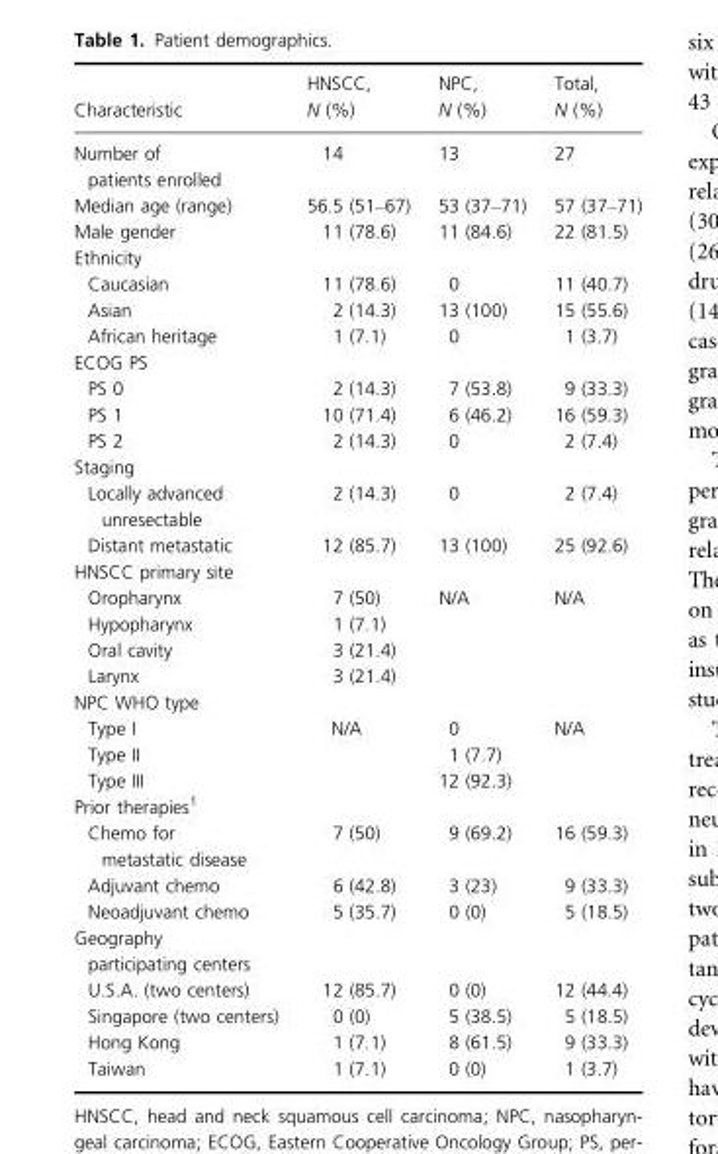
<table><thead><tr><td>Characteristic</td><td>HNSCC, N (%)</td><td>NPC, N (%)</td><td>Total, N (%)</td></tr></thead><tbody><tr><td>Number of patients enrolled</td><td>14</td><td>13</td><td>27</td></tr><tr><td>Median age (range)</td><td>56.5 (51–67)</td><td>53 (37–71)</td><td>57 (37–71)</td></tr><tr><td>Male gender</td><td>11 (78.6)</td><td>11 (84.6)</td><td>22 (81.5)</td></tr><tr><td colspan="4">Ethnicity</td></tr><tr><td>Caucasian</td><td>11 (78.6)</td><td>0</td><td>11 (40.7)</td></tr><tr><td>Asian</td><td>2 (14.3)</td><td>13 (100)</td><td>15 (55.6)</td></tr><tr><td>African heritage</td><td>1 (7.1)</td><td>0</td><td>1 (3.7)</td></tr><tr><td colspan="4">ECOG PS</td></tr><tr><td>PS 0</td><td>2 (14.3)</td><td>7 (53.8)</td><td>9 (33.3)</td></tr><tr><td>PS 1</td><td>10 (71.4)</td><td>6 (46.2)</td><td>16 (59.3)</td></tr><tr><td>PS 2</td><td>2 (14.3)</td><td>0</td><td>2 (7.4)</td></tr><tr><td colspan="4">Staging</td></tr><tr><td>Locally advanced unresectable</td><td>2 (14.3)</td><td>0</td><td>2 (7.4)</td></tr><tr><td>Distant metastatic</td><td>12 (85.7)</td><td>13 (100)</td><td>25 (92.6)</td></tr><tr><td colspan="4">HNSCC primary site</td></tr><tr><td>Oropharynx</td><td>7 (50)</td><td>N/A</td><td>N/A</td></tr><tr><td>Hypopharynx</td><td>1 (7.1)</td><td></td><td></td></tr><tr><td>Oral cavity</td><td>3 (21.4)</td><td></td><td></td></tr><tr><td>Larynx</td><td>3 (21.4)</td><td></td><td></td></tr><tr><td colspan="4">NPC WHO type</td></tr><tr><td>Type I</td><td>N/A</td><td>0</td><td>N/A</td></tr><tr><td>Type II</td><td></td><td>1 (7.7)</td><td></td></tr><tr><td>Type III</td><td></td><td>12 (92.3)</td><td></td></tr><tr><td colspan="4">Prior therapies<sup>1</sup></td></tr><tr><td>Chemo for metastatic disease</td><td>7 (50)</td><td>9 (69.2)</td><td>16 (59.3)</td></tr><tr><td>Adjuvant chemo</td><td>6 (42.8)</td><td>3 (23)</td><td>9 (33.3)</td></tr><tr><td>Neoadjuvant chemo</td><td>5 (35.7)</td><td>0 (0)</td><td>5 (18.5)</td></tr><tr><td colspan="4">Geography participating centers</td></tr><tr><td>U.S.A. (two centers)</td><td>12 (85.7)</td><td>0 (0)</td><td>12 (44.4)</td></tr><tr><td>Singapore (two centers)</td><td>0 (0)</td><td>5 (38.5)</td><td>5 (18.5)</td></tr><tr><td>Hong Kong</td><td>1 (7.1)</td><td>8 (61.5)</td><td>9 (33.3)</td></tr><tr><td>Taiwan</td><td>1 (7.1)</td><td>0 (0)</td><td>1 (3.7)</td></tr></tbody></table>